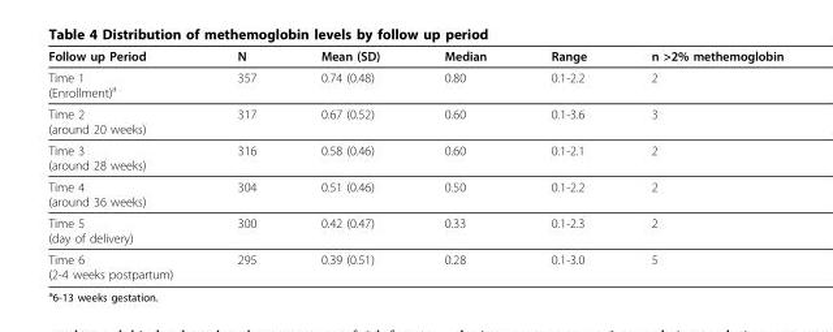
<table><thead><tr><td>Follow up Period</td><td>N</td><td>Mean (SD)</td><td>Median</td><td>Range</td><td>n &gt;2% methemoglobin</td></tr></thead><tbody><tr><td>Time 1 (Enrollment)<sup>a</sup></td><td>357</td><td>0.74 (0.48)</td><td>0.80</td><td>0.1-2.2</td><td>2</td></tr><tr><td>Time 2 (around 20 weeks)</td><td>317</td><td>0.67 (0.52)</td><td>0.60</td><td>0.1-3.6</td><td>3</td></tr><tr><td>Time 3 (around 28 weeks)</td><td>316</td><td>0.58 (0.46)</td><td>0.60</td><td>0.1-2.1</td><td>2</td></tr><tr><td>Time 4 (around 36 weeks)</td><td>304</td><td>0.51 (0.46)</td><td>0.50</td><td>0.1-2.2</td><td>2</td></tr><tr><td>Time 5 (day of delivery)</td><td>300</td><td>0.42 (0.47)</td><td>0.33</td><td>0.1-2.3</td><td>2</td></tr><tr><td>Time 6 (2-4 weeks postpartum)</td><td>295</td><td>0.39 (0.51)</td><td>0.28</td><td>0.1-3.0</td><td>5</td></tr></tbody></table>